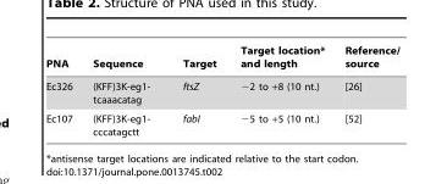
<table><thead><tr><td>PNA</td><td>Sequence</td><td>Target</td><td>Target location* and length</td><td>Reference/ source</td></tr></thead><tbody><tr><td>Ec326</td><td>(KFF)3K-eg1- tcaaacatag</td><td>ftsZ</td><td>−2 to +8 (10 nt.)</td><td>[26]</td></tr><tr><td>Ec107</td><td>(KFF)3K-eg1- cccatagctt</td><td>fabI</td><td>−5 to +5 (10 nt.)</td><td>[52]</td></tr></tbody></table>